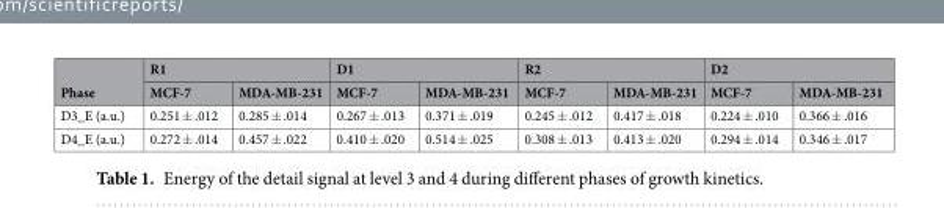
<table><thead><tr><td rowspan="2">Phase</td><td colspan="2">R1</td><td colspan="2">D1</td><td colspan="2">R2</td><td colspan="2">D2</td></tr><tr><td>MCF-7</td><td>MDA-MB-231</td><td>MCF-7</td><td>MDA-MB-231</td><td>MCF-7</td><td>MDA-MB-231</td><td>MCF-7</td><td>MDA-MB-231</td></tr></thead><tbody><tr><td>D3_E (a.u.)</td><td>0.251 ± .012</td><td>0.285 ± .014</td><td>0.267 ± .013</td><td>0.371 ± .019</td><td>0.245 ± .012</td><td>0.417 ± .018</td><td>0.224 ± .010</td><td>0.366 ± .016</td></tr><tr><td>D4_E (a.u.)</td><td>0.272 ± .014</td><td>0.457 ± .022</td><td>0.410 ± .020</td><td>0.514 ± .025</td><td>0.308 ± .013</td><td>0.413 ± .020</td><td>0.294 ± .014</td><td>0.346 ± .017</td></tr></tbody></table>